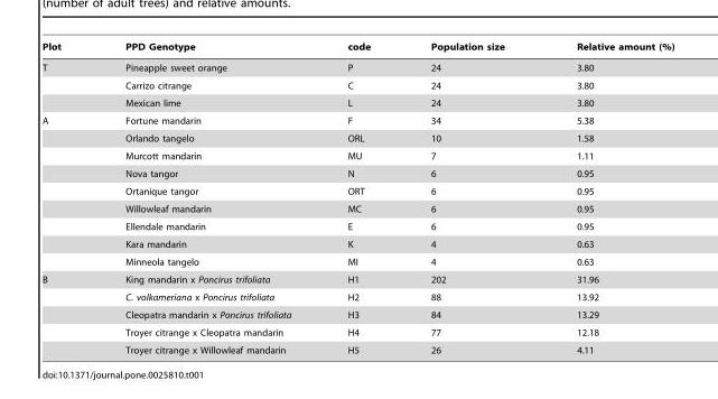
<table><thead><tr><td>Plot</td><td>PPD Genotype</td><td>code</td><td>Population size</td><td>Relative amount (%)</td></tr></thead><tbody><tr><td rowspan="3">T</td><td>Pineapple sweet orange</td><td>P</td><td>24</td><td>3.80</td></tr><tr><td>Carrizo citrange</td><td>C</td><td>24</td><td>3.80</td></tr><tr><td>Mexican lime</td><td>L</td><td>24</td><td>3.80</td></tr><tr><td rowspan="9">A</td><td>Fortune mandarin</td><td>F</td><td>34</td><td>5.38</td></tr><tr><td>Orlando tangelo</td><td>ORL</td><td>10</td><td>1.58</td></tr><tr><td>Murcott mandarin</td><td>MU</td><td>7</td><td>1.11</td></tr><tr><td>Nova tangor</td><td>N</td><td>6</td><td>0.95</td></tr><tr><td>Ortanique tangor</td><td>ORT</td><td>6</td><td>0.95</td></tr><tr><td>Willowleaf mandarin</td><td>MC</td><td>6</td><td>0.95</td></tr><tr><td>Ellendale mandarin</td><td>E</td><td>6</td><td>0.95</td></tr><tr><td>Kara mandarin</td><td>K</td><td>4</td><td>0.63</td></tr><tr><td>Minneola tangelo</td><td>MI</td><td>4</td><td>0.63</td></tr><tr><td rowspan="5">B</td><td>King mandarin x Poncirus trifoliata</td><td>H1</td><td>202</td><td>31.96</td></tr><tr><td>C. volkameriana x Poncirus trifoliata</td><td>H2</td><td>88</td><td>13.92</td></tr><tr><td>Cleopatra mandarin x Poncirus trifoliata</td><td>H3</td><td>84</td><td>13.29</td></tr><tr><td>Troyer citrange x Cleopatra mandarin</td><td>H4</td><td>77</td><td>12.18</td></tr><tr><td>Troyer citrange x Willowleaf mandarin</td><td>H5</td><td>26</td><td>4.11</td></tr></tbody></table>